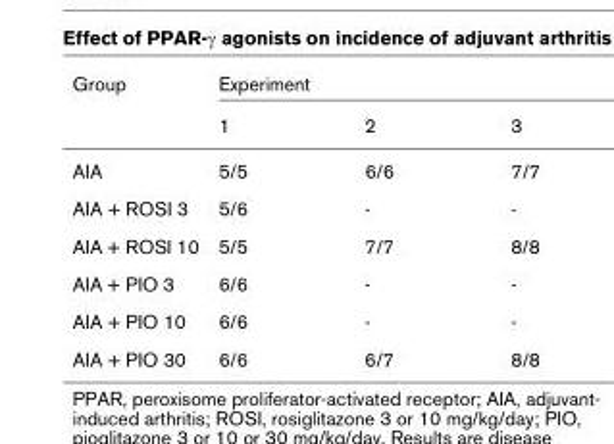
<table><thead><tr><td rowspan="2">Group</td><td colspan="3">Experiment</td></tr><tr><td>1</td><td>2</td><td>3</td></tr></thead><tbody><tr><td>AIA</td><td>5/5</td><td>6/6</td><td>7/7</td></tr><tr><td>AIA + ROSI 3</td><td>5/6</td><td>-</td><td>-</td></tr><tr><td>AIA + ROSI 10</td><td>5/5</td><td>7/7</td><td>8/8</td></tr><tr><td>AIA + PIO 3</td><td>6/6</td><td>-</td><td>-</td></tr><tr><td>AIA + PIO 10</td><td>6/6</td><td>-</td><td>-</td></tr><tr><td>AIA + PIO 30</td><td>6/6</td><td>6/7</td><td>8/8</td></tr></tbody></table>